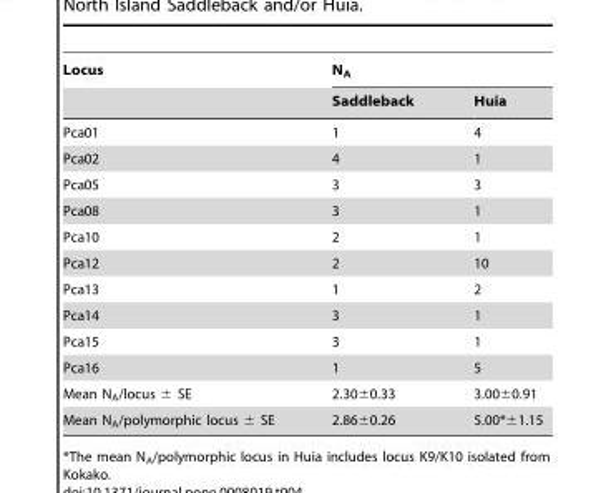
<table><thead><tr><td rowspan="2">Locus</td><td colspan="2">N<sub>A</sub></td></tr><tr><td>Saddleback</td><td>Huia</td></tr></thead><tbody><tr><td>Pca01</td><td>1</td><td>4</td></tr><tr><td>Pca02</td><td>4</td><td>1</td></tr><tr><td>Pca05</td><td>3</td><td>3</td></tr><tr><td>Pca08</td><td>3</td><td>1</td></tr><tr><td>Pca10</td><td>2</td><td>1</td></tr><tr><td>Pca12</td><td>2</td><td>10</td></tr><tr><td>Pca13</td><td>1</td><td>2</td></tr><tr><td>Pca14</td><td>3</td><td>1</td></tr><tr><td>Pca15</td><td>3</td><td>1</td></tr><tr><td>Pca16</td><td>1</td><td>5</td></tr><tr><td>Mean N<sub>A</sub>/locus ± SE</td><td>2.30±0.33</td><td>3.00±0.91</td></tr><tr><td>Mean N<sub>A</sub>/polymorphic locus ± SE</td><td>2.86±0.26</td><td>5.00*±1.15</td></tr></tbody></table>